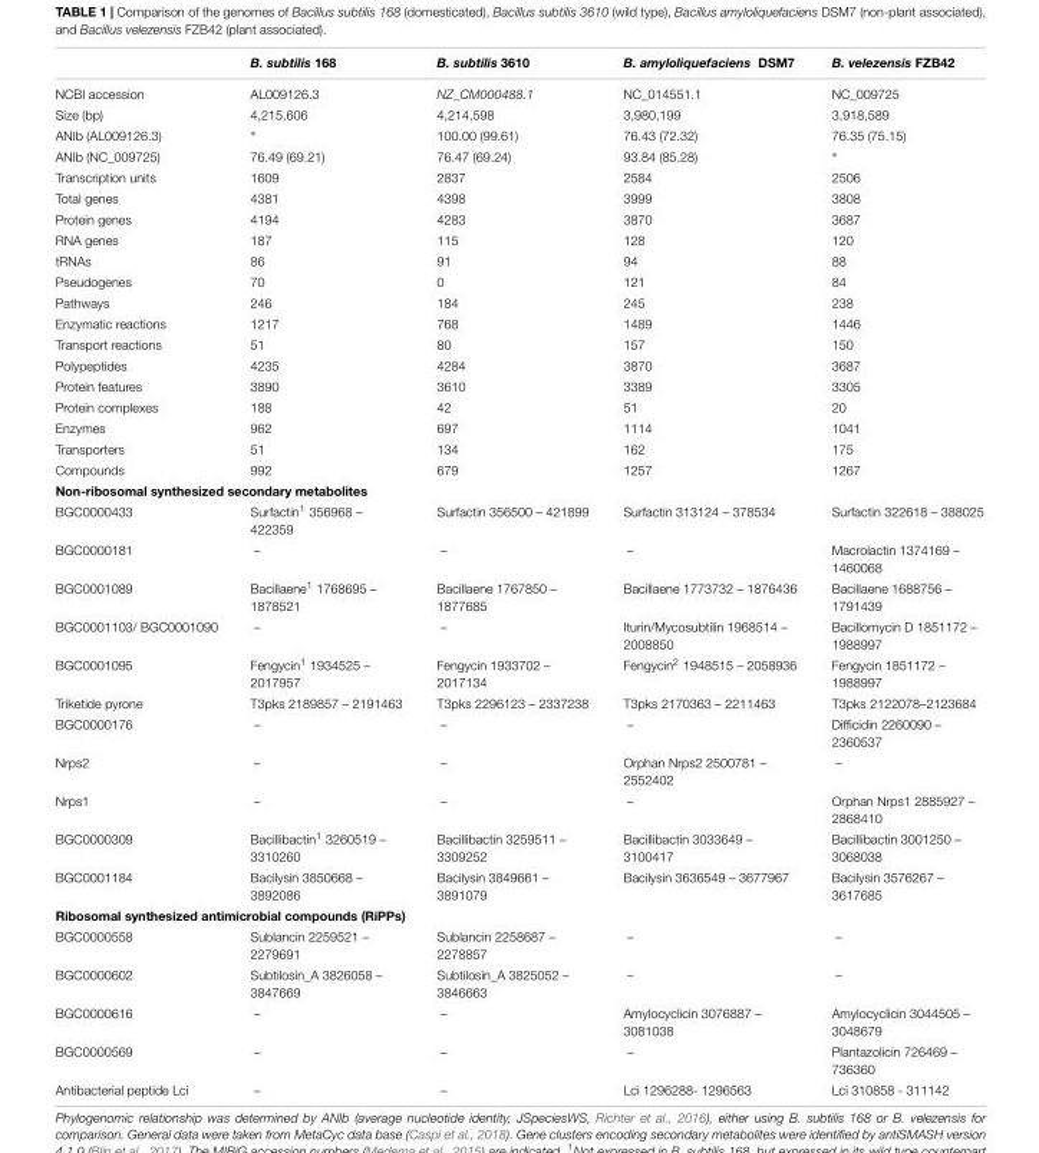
<table><thead><tr><td></td><td>B. subtilis 168</td><td>B. subtilis 3610</td><td>B. amyloliquefaciens DSM7</td><td>B. velezensis FZB42</td></tr></thead><tbody><tr><td>NCBI accession</td><td>AL009126.3</td><td>NZ_CM000488.1</td><td>NC_014551.1</td><td>NC_009725</td></tr><tr><td>Size (bp)</td><td>4,215,606</td><td>4,214,598</td><td>3,980,199</td><td>3,918,589</td></tr><tr><td>ANIb (AL009126.3)</td><td>∗</td><td>100.00 (99.61)</td><td>76.43 (72.32)</td><td>76.35 (75.15)</td></tr><tr><td>ANIb (NC_009725)</td><td>76.49 (69.21)</td><td>76.47 (69.24)</td><td>93.84 (85.28)</td><td>∗</td></tr><tr><td>Transcription units</td><td>1609</td><td>2837</td><td>2584</td><td>2506</td></tr><tr><td>Total genes</td><td>4381</td><td>4398</td><td>3999</td><td>3808</td></tr><tr><td>Protein genes</td><td>4194</td><td>4283</td><td>3870</td><td>3687</td></tr><tr><td>RNA genes</td><td>187</td><td>115</td><td>128</td><td>120</td></tr><tr><td>tRNAs</td><td>86</td><td>91</td><td>94</td><td>88</td></tr><tr><td>Pseudogenes</td><td>70</td><td>0</td><td>121</td><td>84</td></tr><tr><td>Pathways</td><td>246</td><td>184</td><td>245</td><td>238</td></tr><tr><td>Enzymatic reactions</td><td>1217</td><td>768</td><td>1489</td><td>1446</td></tr><tr><td>Transport reactions</td><td>51</td><td>80</td><td>157</td><td>150</td></tr><tr><td>Polypeptides</td><td>4235</td><td>4284</td><td>3870</td><td>3687</td></tr><tr><td>Protein features</td><td>3890</td><td>3610</td><td>3389</td><td>3305</td></tr><tr><td>Protein complexes</td><td>188</td><td>42</td><td>51</td><td>20</td></tr><tr><td>Enzymes</td><td>962</td><td>697</td><td>1114</td><td>1041</td></tr><tr><td>Transporters</td><td>51</td><td>134</td><td>162</td><td>175</td></tr><tr><td>Compounds</td><td>992</td><td>679</td><td>1257</td><td>1267</td></tr><tr><td colspan="5">Non-ribosomal synthesized secondary metabolites</td></tr><tr><td>BGC0000433</td><td>Surfactin<sup>1</sup> 356968 – 422359</td><td>Surfactin 356500 – 421899</td><td>Surfactin 313124 – 378534</td><td>Surfactin 322618 – 388025</td></tr><tr><td>BGC0000181</td><td>–</td><td>–</td><td>–</td><td>Macrolactin 1374169 – 1460068</td></tr><tr><td>BGC0001089</td><td>Bacillaene<sup>1</sup> 1768695 – 1878521</td><td>Bacillaene 1767850 – 1877685</td><td>Bacillaene 1773732 – 1876436</td><td>Bacillaene 1688756 – 1791439</td></tr><tr><td>BGC0001103/ BGC0001090</td><td>–</td><td>–</td><td>Iturin/Mycosubtilin 1968514 – 2008850</td><td>Bacillomycin D 1851172 – 1988997</td></tr><tr><td>BGC0001095</td><td>Fengycin<sup>1</sup> 1934525 – 2017957</td><td>Fengycin 1933702 – 2017134</td><td>Fengycin<sup>2</sup> 1948515 – 2058936</td><td>Fengycin 1851172 – 1988997</td></tr><tr><td>Triketide pyrone</td><td>T3pks 2189857 – 2191463</td><td>T3pks 2296123 – 2337238</td><td>T3pks 2170363 – 2211463</td><td>T3pks 2122078–2123684</td></tr><tr><td>BGC0000176</td><td>–</td><td>–</td><td>–</td><td>Difficidin 2260090 – 2360537</td></tr><tr><td>Nrps2</td><td>–</td><td>–</td><td>Orphan Nrps2 2500781 – 2552402</td><td>–</td></tr><tr><td>Nrps1</td><td>–</td><td>–</td><td>–</td><td>Orphan Nrps1 2885927 – 2868410</td></tr><tr><td>BGC0000309</td><td>Bacillibactin<sup>1</sup> 3260519 – 3310260</td><td>Bacillibactin 3259511 – 3309252</td><td>Bacillibactin 3033649 – 3100417</td><td>Bacillibactin 3001250 – 3068038</td></tr><tr><td>BGC0001184</td><td>Bacilysin 3850668 – 3892086</td><td>Bacilysin 3849661 – 3891079</td><td>Bacilysin 3636549 – 3677967</td><td>Bacilysin 3576267 – 3617685</td></tr><tr><td colspan="5">Ribosomal synthesized antimicrobial compounds (RiPPs)</td></tr><tr><td>BGC0000558</td><td>Sublancin 2259521 – 2279691</td><td>Sublancin 2258687 – 2278857</td><td>–</td><td>–</td></tr><tr><td>BGC0000602</td><td>Subtilosin_A 3826058 – 3847669</td><td>Subtilosin_A 3825052 – 3846663</td><td>–</td><td>–</td></tr><tr><td>BGC0000616</td><td>–</td><td>–</td><td>Amylocyclicin 3076887 – 3081038</td><td>Amylocyclicin 3044505 – 3048679</td></tr><tr><td>BGC0000569</td><td>–</td><td>–</td><td>–</td><td>Plantazolicin 726469 – 736360</td></tr><tr><td>Antibacterial peptide Lci</td><td>–</td><td>–</td><td>Lci 1296288- 1296563</td><td>Lci 310858 - 311142</td></tr></tbody></table>